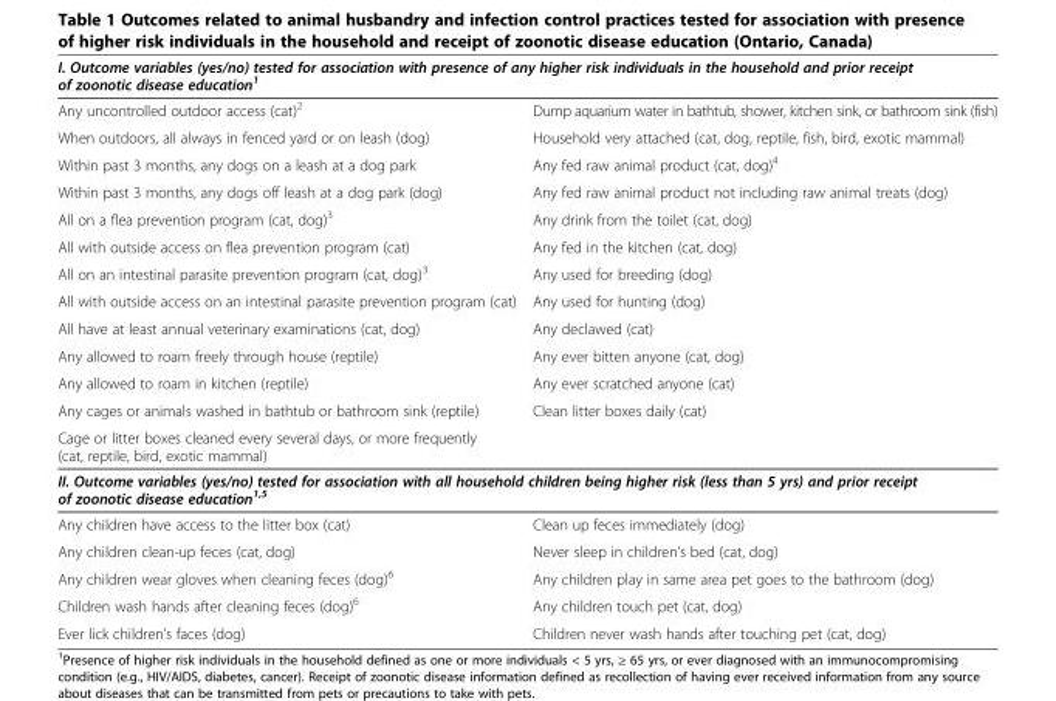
<table><tbody><tr><td colspan="2">I. Outcome variables (yes/no) tested for association with presence of any higher risk individuals in the household and prior receipt of zoonotic disease education<sup>1</sup></td></tr><tr><td>Any uncontrolled outdoor access (cat)<sup>2</sup></td><td>Dump aquarium water in bathtub, shower, kitchen sink, or bathroom sink (fish)</td></tr><tr><td>When outdoors, all always in fenced yard or on leash (dog)</td><td>Household very attached (cat, dog, reptile, fish, bird, exotic mammal)</td></tr><tr><td>Within past 3 months, any dogs on a leash at a dog park</td><td>Any fed raw animal product (cat, dog)<sup>4</sup></td></tr><tr><td>Within past 3 months, any dogs off leash at a dog park (dog)</td><td>Any fed raw animal product not including raw animal treats (dog)</td></tr><tr><td>All on a flea prevention program (cat, dog)<sup>3</sup></td><td>Any drink from the toilet (cat, dog)</td></tr><tr><td>All with outside access on flea prevention program (cat)</td><td>Any fed in the kitchen (cat, dog)</td></tr><tr><td>All on an intestinal parasite prevention program (cat, dog)<sup>3</sup></td><td>Any used for breeding (dog)</td></tr><tr><td>All with outside access on an intestinal parasite prevention program (cat)</td><td>Any used for hunting (dog)</td></tr><tr><td>All have at least annual veterinary examinations (cat, dog)</td><td>Any declawed (cat)</td></tr><tr><td>Any allowed to roam freely through house (reptile)</td><td>Any ever bitten anyone (cat, dog)</td></tr><tr><td>Any allowed to roam in kitchen (reptile)</td><td>Any ever scratched anyone (cat)</td></tr><tr><td>Any cages or animals washed in bathtub or bathroom sink (reptile)</td><td>Clean litter boxes daily (cat)</td></tr><tr><td colspan="2">Cage or litter boxes cleaned every several days, or more frequently (cat, reptile, bird, exotic mammal)</td></tr><tr><td colspan="2">II. Outcome variables (yes/no) tested for association with all household children being higher risk (less than 5 yrs) and prior receipt of zoonotic disease education<sup>1,5</sup></td></tr><tr><td>Any children have access to the litter box (cat)</td><td>Clean up feces immediately (dog)</td></tr><tr><td>Any children clean-up feces (cat, dog)</td><td>Never sleep in children’s bed (cat, dog)</td></tr><tr><td>Any children wear gloves when cleaning feces (dog)<sup>6</sup></td><td>Any children play in same area pet goes to the bathroom (dog)</td></tr><tr><td>Children wash hands after cleaning feces (dog)<sup>6</sup></td><td>Any children touch pet (cat, dog)</td></tr><tr><td>Ever lick children’s faces (dog)</td><td>Children never wash hands after touching pet (cat, dog)</td></tr></tbody></table>